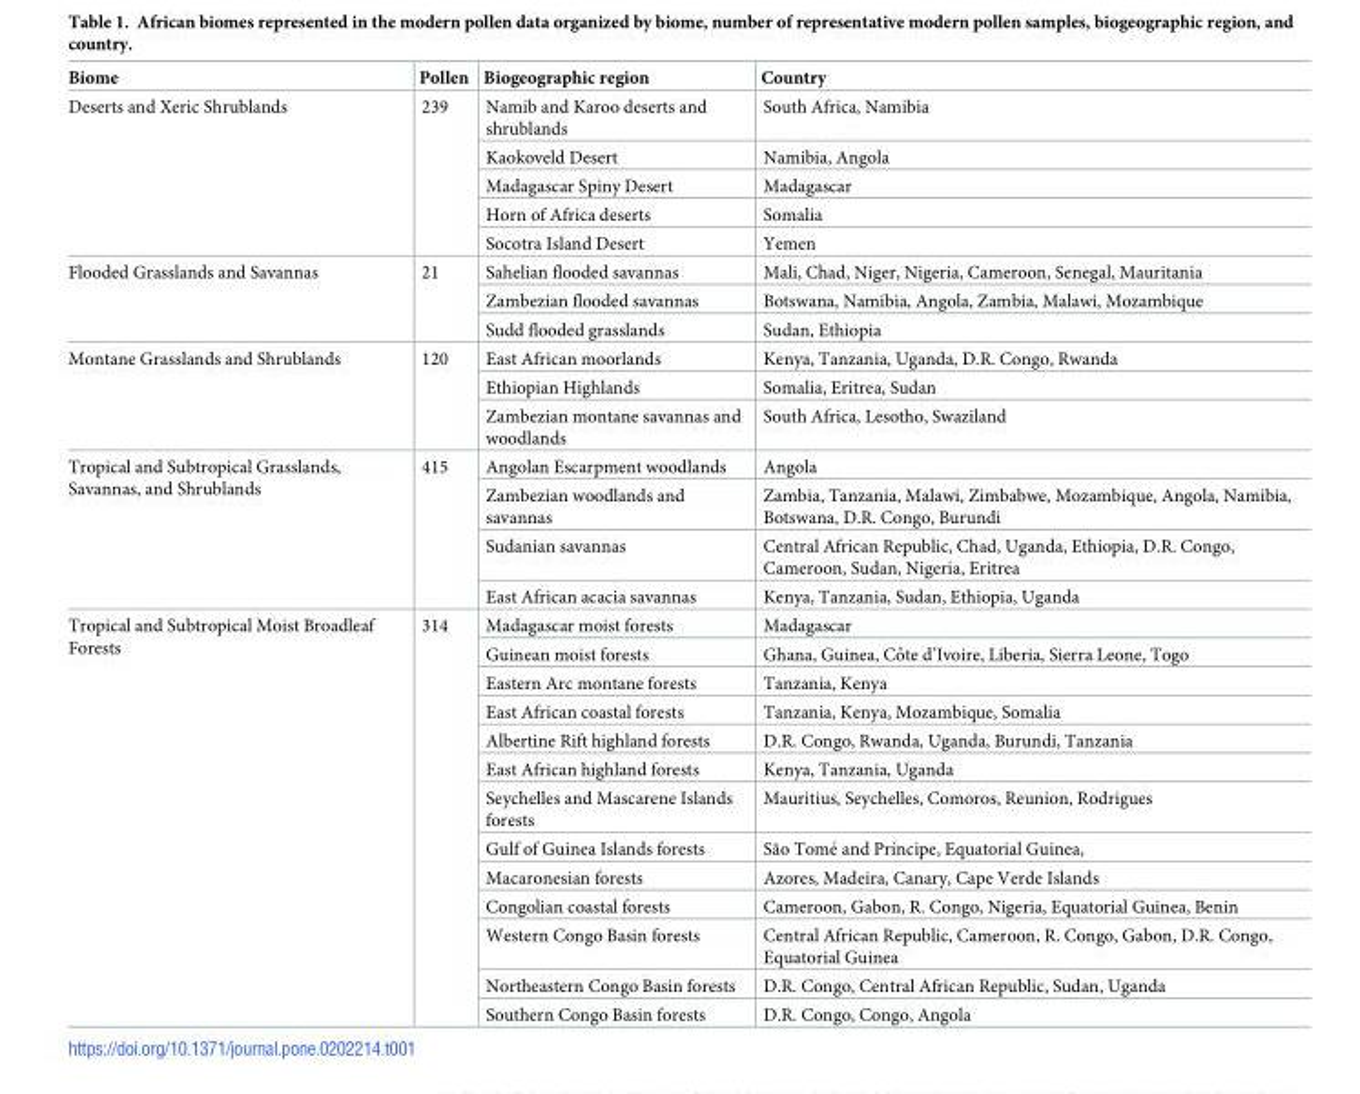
<table><thead><tr><td>Biome</td><td>Pollen</td><td>Biogeographic region</td><td>Country</td></tr></thead><tbody><tr><td rowspan="5">Deserts and Xeric Shrublands</td><td rowspan="5">239</td><td>Namib and Karoo deserts and shrublands</td><td>South Africa, Namibia</td></tr><tr><td>Kaokoveld Desert</td><td>Namibia, Angola</td></tr><tr><td>Madagascar Spiny Desert</td><td>Madagascar</td></tr><tr><td>Horn of Africa deserts</td><td>Somalia</td></tr><tr><td>Socotra Island Desert</td><td>Yemen</td></tr><tr><td rowspan="3">Flooded Grasslands and Savannas</td><td rowspan="3">21</td><td>Sahelian flooded savannas</td><td>Mali, Chad, Niger, Nigeria, Cameroon, Senegal, Mauritania</td></tr><tr><td>Zambezian flooded savannas</td><td>Botswana, Namibia, Angola, Zambia, Malawi, Mozambique</td></tr><tr><td>Sudd flooded grasslands</td><td>Sudan, Ethiopia</td></tr><tr><td rowspan="3">Montane Grasslands and Shrublands</td><td rowspan="3">120</td><td>East African moorlands</td><td>Kenya, Tanzania, Uganda, D.R. Congo, Rwanda</td></tr><tr><td>Ethiopian Highlands</td><td>Somalia, Eritrea, Sudan</td></tr><tr><td>Zambezian montane savannas and woodlands</td><td>South Africa, Lesotho, Swaziland</td></tr><tr><td rowspan="4">Tropical and Subtropical Grasslands, Savannas, and Shrublands</td><td rowspan="4">415</td><td>Angolan Escarpment woodlands</td><td>Angola</td></tr><tr><td>Zambezian woodlands and savannas</td><td>Zambia, Tanzania, Malawi, Zimbabwe, Mozambique, Angola, Namibia, Botswana, D.R. Congo, Burundi</td></tr><tr><td>Sudanian savannas</td><td>Central African Republic, Chad, Uganda, Ethiopia, D.R. Congo, Cameroon, Sudan, Nigeria, Eritrea</td></tr><tr><td>East African acacia savannas</td><td>Kenya, Tanzania, Sudan, Ethiopia, Uganda</td></tr><tr><td rowspan="13">Tropical and Subtropical Moist Broadleaf Forests</td><td rowspan="13">314</td><td>Madagascar moist forests</td><td>Madagascar</td></tr><tr><td>Guinean moist forests</td><td>Ghana, Guinea, Coˆte d’Ivoire, Liberia, Sierra Leone, Togo</td></tr><tr><td>Eastern Arc montane forests</td><td>Tanzania, Kenya</td></tr><tr><td>East African coastal forests</td><td>Tanzania, Kenya, Mozambique, Somalia</td></tr><tr><td>Albertine Rift highland forests</td><td>D.R. Congo, Rwanda, Uganda, Burundi, Tanzania</td></tr><tr><td>East African highland forests</td><td>Kenya, Tanzania, Uganda</td></tr><tr><td>Seychelles and Mascarene Islands forests</td><td>Mauritius, Seychelles, Comoros, Reunion, Rodrigues</td></tr><tr><td>Gulf of Guinea Islands forests</td><td>São Tome´ and Prı´ncipe, Equatorial Guinea,</td></tr><tr><td>Macaronesian forests</td><td>Azores, Madeira, Canary, Cape Verde Islands</td></tr><tr><td>Congolian coastal forests</td><td>Cameroon, Gabon, R. Congo, Nigeria, Equatorial Guinea, Benin</td></tr><tr><td>Western Congo Basin forests</td><td>Central African Republic, Cameroon, R. Congo, Gabon, D.R. Congo, Equatorial Guinea</td></tr><tr><td>Northeastern Congo Basin forests</td><td>D.R. Congo, Central African Republic, Sudan, Uganda</td></tr><tr><td>Southern Congo Basin forests</td><td>D.R. Congo, Congo, Angola</td></tr></tbody></table>